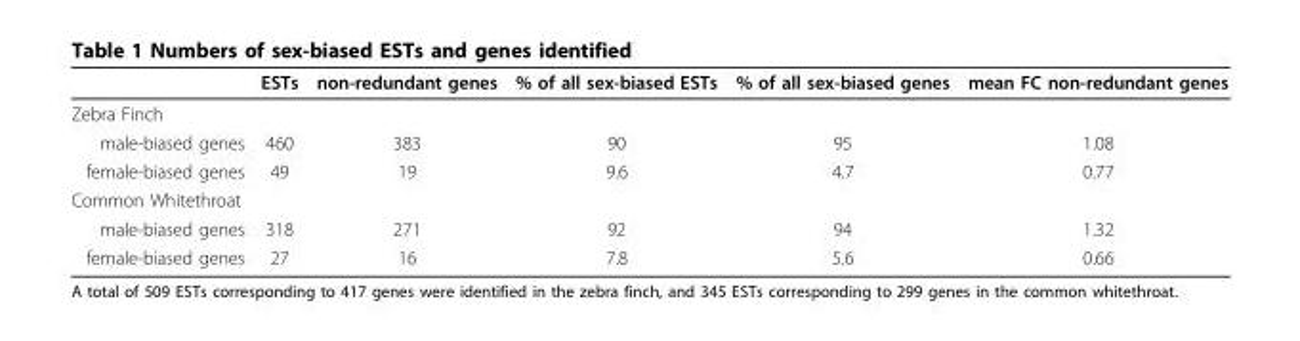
<table><thead><tr><td></td><td>ESTs</td><td>non-redundant genes</td><td>% of all sex-biased ESTs</td><td>% of all sex-biased genes</td><td>mean FC non-redundant genes</td></tr></thead><tbody><tr><td colspan="6">Zebra Finch</td></tr><tr><td>male-biased genes</td><td>460</td><td>383</td><td>90</td><td>95</td><td>1.08</td></tr><tr><td>female-biased genes</td><td>49</td><td>19</td><td>9.6</td><td>4.7</td><td>0.77</td></tr><tr><td colspan="6">Common Whitethroat</td></tr><tr><td>male-biased genes</td><td>318</td><td>271</td><td>92</td><td>94</td><td>1.32</td></tr><tr><td>female-biased genes</td><td>27</td><td>16</td><td>7.8</td><td>5.6</td><td>0.66</td></tr></tbody></table>